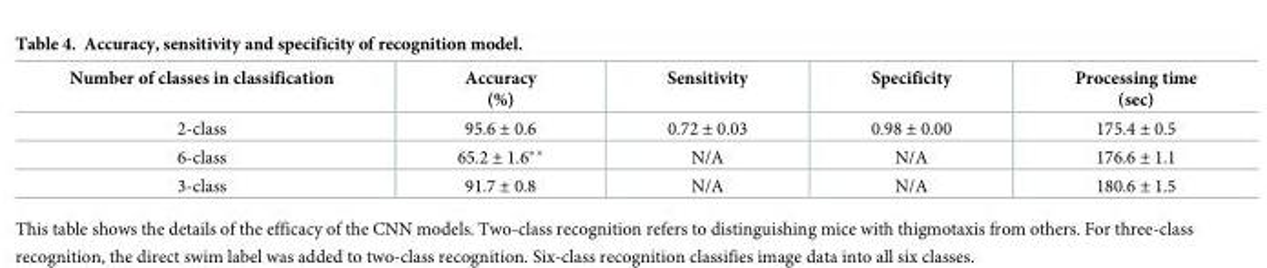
<table><thead><tr><td>Number of classes in classification</td><td>Accuracy (%)</td><td>Sensitivity</td><td>Specificity</td><td>Processing time (sec)</td></tr></thead><tbody><tr><td>2-class</td><td>95.6 ± 0.6</td><td>0.72 ± 0.03</td><td>0.98 ± 0.00</td><td>175.4 ± 0.5</td></tr><tr><td>6-class</td><td>65.2 ± 1.6**</td><td>N/A</td><td>N/A</td><td>176.6 ± 1.1</td></tr><tr><td>3-class</td><td>91.7 ± 0.8</td><td>N/A</td><td>N/A</td><td>180.6 ± 1.5</td></tr></tbody></table>